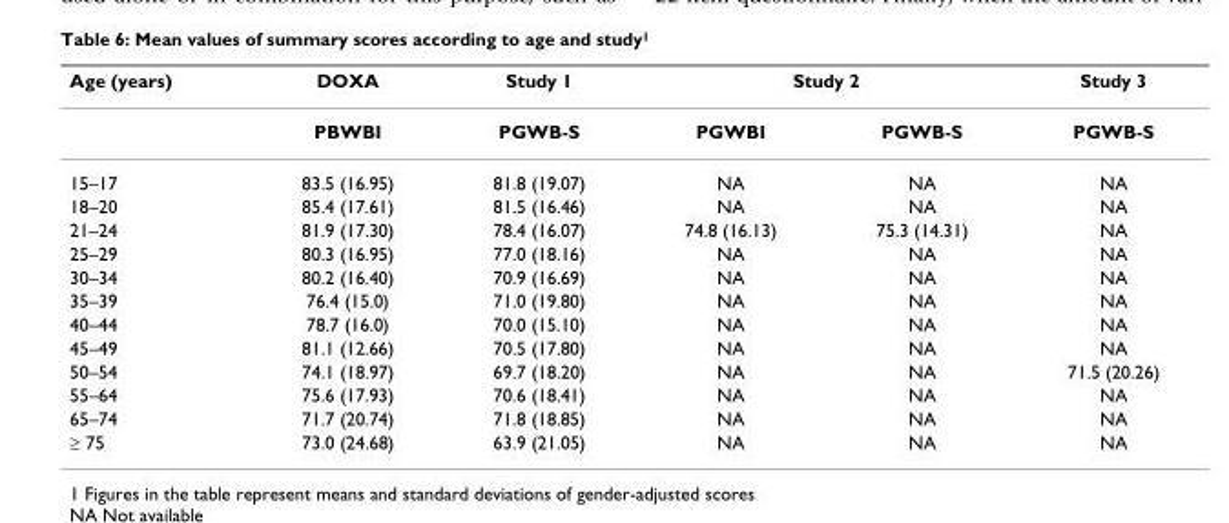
<table><thead><tr><td rowspan="2">Age (years)</td><td rowspan="2">DOXA PBWBI</td><td rowspan="2">Study 1 PGWB-S</td><td colspan="2">Study 2</td><td rowspan="2">Study 3 PGWB-S</td></tr><tr><td>PGWBI</td><td>PGWB-S</td></tr></thead><tbody><tr><td>15–17</td><td>83.5 (16.95)</td><td>81.8 (19.07)</td><td>NA</td><td>NA</td><td>NA</td></tr><tr><td>18–20</td><td>85.4 (17.61)</td><td>81.5 (16.46)</td><td>NA</td><td>NA</td><td>NA</td></tr><tr><td>21–24</td><td>81.9 (17.30)</td><td>78.4 (16.07)</td><td>74.8 (16.13)</td><td>75.3 (14.31)</td><td>NA</td></tr><tr><td>25–29</td><td>80.3 (16.95)</td><td>77.0 (18.16)</td><td>NA</td><td>NA</td><td>NA</td></tr><tr><td>30–34</td><td>80.2 (16.40)</td><td>70.9 (16.69)</td><td>NA</td><td>NA</td><td>NA</td></tr><tr><td>35–39</td><td>76.4 (15.0)</td><td>71.0 (19.80)</td><td>NA</td><td>NA</td><td>NA</td></tr><tr><td>40–44</td><td>78.7 (16.0)</td><td>70.0 (15.10)</td><td>NA</td><td>NA</td><td>NA</td></tr><tr><td>45–49</td><td>81.1 (12.66)</td><td>70.5 (17.80)</td><td>NA</td><td>NA</td><td>NA</td></tr><tr><td>50–54</td><td>74.1 (18.97)</td><td>69.7 (18.20)</td><td>NA</td><td>NA</td><td>71.5 (20.26)</td></tr><tr><td>55–64</td><td>75.6 (17.93)</td><td>70.6 (18.41)</td><td>NA</td><td>NA</td><td>NA</td></tr><tr><td>65–74</td><td>71.7 (20.74)</td><td>71.8 (18.85)</td><td>NA</td><td>NA</td><td>NA</td></tr><tr><td>≥ 75</td><td>73.0 (24.68)</td><td>63.9 (21.05)</td><td>NA</td><td>NA</td><td>NA</td></tr></tbody></table>